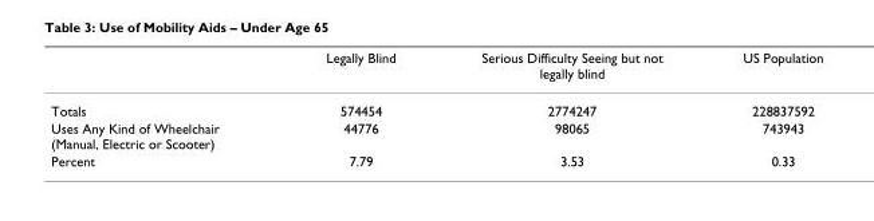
<table><thead><tr><td></td><td>Legally Blind</td><td>Serious Difficulty Seeing but not legally blind</td><td>US Population</td></tr></thead><tbody><tr><td>Totals</td><td>574454</td><td>2774247</td><td>228837592</td></tr><tr><td>Uses Any Kind of Wheelchair (Manual, Electric or Scooter)</td><td>44776</td><td>98065</td><td>743943</td></tr><tr><td>Percent</td><td>7.79</td><td>3.53</td><td>0.33</td></tr></tbody></table>